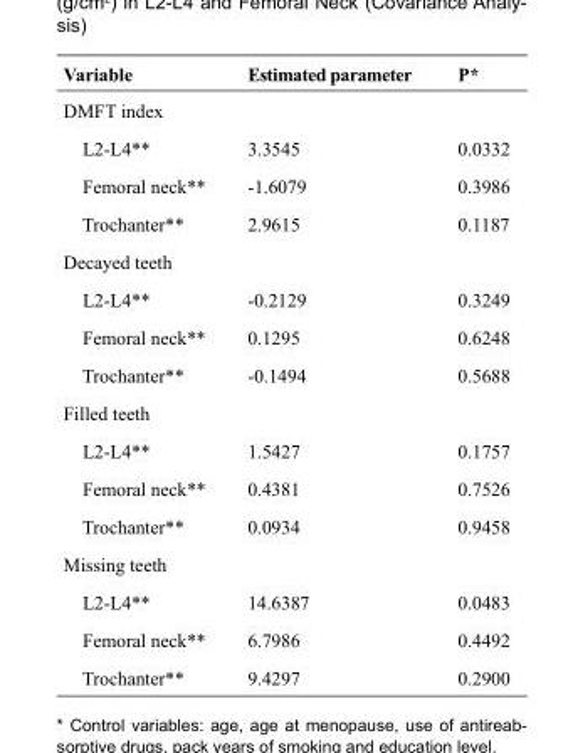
<table><thead><tr><td>Variable</td><td>Estimated parameter</td><td>P*</td></tr></thead><tbody><tr><td colspan="3">DMFT index</td></tr><tr><td>L2-L4**</td><td>3.3545</td><td>0.0332</td></tr><tr><td>Femoral neck**</td><td>-1.6079</td><td>0.3986</td></tr><tr><td>Trochanter**</td><td>2.9615</td><td>0.1187</td></tr><tr><td colspan="3">Decayed teeth</td></tr><tr><td>L2-L4**</td><td>-0.2129</td><td>0.3249</td></tr><tr><td>Femoral neck**</td><td>0.1295</td><td>0.6248</td></tr><tr><td>Trochanter**</td><td>-0.1494</td><td>0.5688</td></tr><tr><td colspan="3">Filled teeth</td></tr><tr><td>L2-L4**</td><td>1.5427</td><td>0.1757</td></tr><tr><td>Femoral neck**</td><td>0.4381</td><td>0.7526</td></tr><tr><td>Trochanter**</td><td>0.0934</td><td>0.9458</td></tr><tr><td colspan="3">Missing teeth</td></tr><tr><td>L2-L4**</td><td>14.6387</td><td>0.0483</td></tr><tr><td>Femoral neck**</td><td>6.7986</td><td>0.4492</td></tr><tr><td>Trochanter**</td><td>9.4297</td><td>0.2900</td></tr></tbody></table>